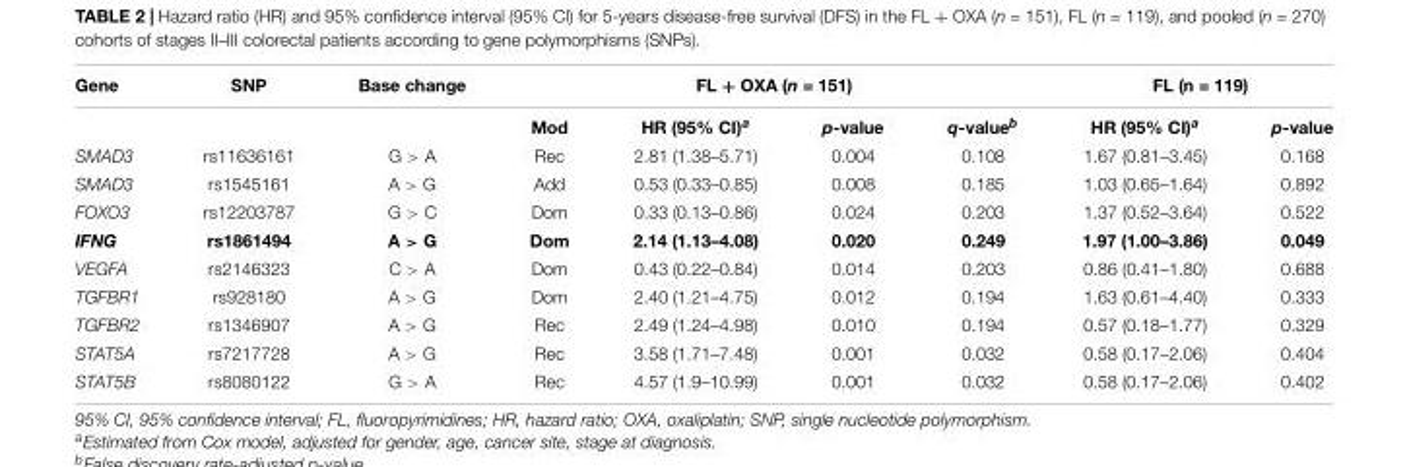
<table><thead><tr><td rowspan="2">Gene</td><td rowspan="2">SNP</td><td rowspan="2">Base change</td><td rowspan="2">Mod</td><td colspan="2">FL + OXA (n = 151)</td><td rowspan="2">q-value<sup>b</sup></td><td colspan="2">FL (n = 119)</td></tr><tr><td>HR (95% CI)a</td><td>p-value</td><td>HR (95% CI)a</td><td>p-value</td></tr></thead><tbody><tr><td>SMAD3</td><td>rs11636161</td><td>G &gt; A</td><td>Rec</td><td>2.81 (1.38–5.71)</td><td>0.004</td><td>0.108</td><td>1.67 (0.81–3.45)</td><td>0.168</td></tr><tr><td>SMAD3</td><td>rs1545161</td><td>A &gt; G</td><td>Add</td><td>0.53 (0.33–0.85)</td><td>0.008</td><td>0.185</td><td>1.03 (0.65–1.64)</td><td>0.892</td></tr><tr><td>FOXO3</td><td>rs12203787</td><td>G &gt; C</td><td>Dom</td><td>0.33 (0.13–0.86)</td><td>0.024</td><td>0.203</td><td>1.37 (0.52–3.64)</td><td>0.522</td></tr><tr><td>IFNG</td><td>rs1861494</td><td>A &gt; G</td><td>Dom</td><td>2.14 (1.13–4.08)</td><td>0.020</td><td>0.249</td><td>1.97 (1.00–3.86)</td><td>0.049</td></tr><tr><td>VEGFA</td><td>rs2146323</td><td>C &gt; A</td><td>Dom</td><td>0.43 (0.22–0.84)</td><td>0.014</td><td>0.203</td><td>0.86 (0.41–1.80)</td><td>0.688</td></tr><tr><td>TGFBR1</td><td>rs928180</td><td>A &gt; G</td><td>Dom</td><td>2.40 (1.21–4.75)</td><td>0.012</td><td>0.194</td><td>1.63 (0.61–4.40)</td><td>0.333</td></tr><tr><td>TGFBR2</td><td>rs1346907</td><td>A &gt; G</td><td>Rec</td><td>2.49 (1.24–4.98)</td><td>0.010</td><td>0.194</td><td>0.57 (0.18–1.77)</td><td>0.329</td></tr><tr><td>STAT5A</td><td>rs7217728</td><td>A &gt; G</td><td>Rec</td><td>3.58 (1.71–7.48)</td><td>0.001</td><td>0.032</td><td>0.58 (0.17–2.06)</td><td>0.404</td></tr><tr><td>STAT5B</td><td>rs8080122</td><td>G &gt; A</td><td>Rec</td><td>4.57 (1.9–10.99)</td><td>0.001</td><td>0.032</td><td>0.58 (0.17–2.06)</td><td>0.402</td></tr></tbody></table>